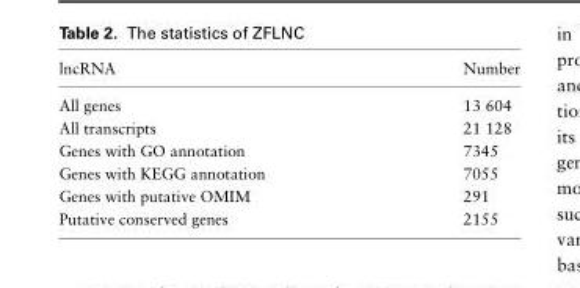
<table><thead><tr><td>lncRNA</td><td>Number</td></tr></thead><tbody><tr><td>All genes</td><td>13 604</td></tr><tr><td>All transcripts</td><td>21 128</td></tr><tr><td>Genes with GO annotation</td><td>7345</td></tr><tr><td>Genes with KEGG annotation</td><td>7055</td></tr><tr><td>Genes with putative OMIM</td><td>291</td></tr><tr><td>Putative conserved genes</td><td>2155</td></tr></tbody></table>